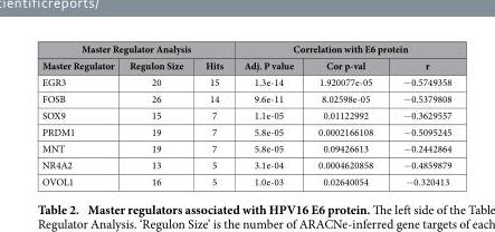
<table><thead><tr><td colspan="3">Master Regulator Analysis</td><td colspan="3">Correlation with E6 protein</td></tr><tr><td>Master Regulator</td><td>Regulon Size</td><td>Hits</td><td>Adj. P value</td><td>Cor p-val</td><td>r</td></tr></thead><tbody><tr><td>EGR3</td><td>20</td><td>15</td><td>1.3e-14</td><td>1.920077e-05</td><td>− 0.5749358</td></tr><tr><td>FOSB</td><td>26</td><td>14</td><td>9.6e-11</td><td>8.02598e-05</td><td>− 0.5379808</td></tr><tr><td>SOX9</td><td>15</td><td>7</td><td>1.1e-05</td><td>0.01122992</td><td>− 0.3629557</td></tr><tr><td>PRDM1</td><td>19</td><td>7</td><td>5.8e-05</td><td>0.0002166108</td><td>− 0.5095245</td></tr><tr><td>MNT</td><td>19</td><td>7</td><td>5.8e-05</td><td>0.09426613</td><td>− 0.2442864</td></tr><tr><td>NR4A2</td><td>13</td><td>5</td><td>3.1e-04</td><td>0.0004620858</td><td>− 0.4859879</td></tr><tr><td>OVOL1</td><td>16</td><td>5</td><td>1.0e-03</td><td>0.02640054</td><td>− 0.320413</td></tr></tbody></table>